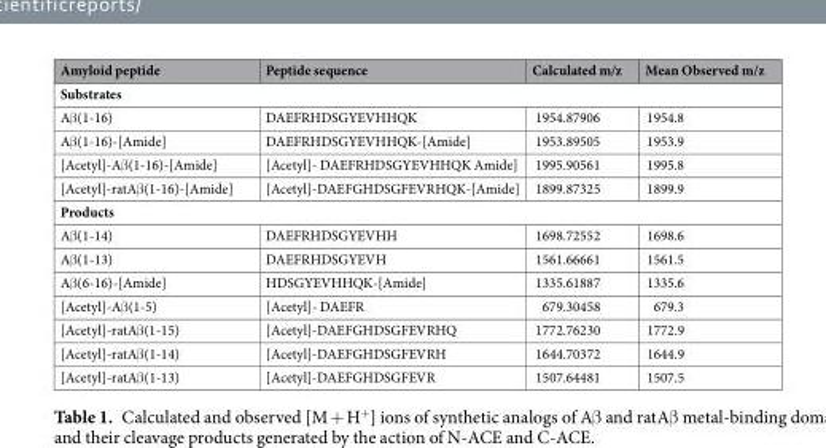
<table><thead><tr><td>Amyloid peptide</td><td>Peptide sequence</td><td>Calculated m/z</td><td>Mean Observed m/z</td></tr></thead><tbody><tr><td colspan="4">Substrates</td></tr><tr><td>Aβ(1-16)</td><td>DAEFRHDSGYEVHHQK</td><td>1954.87906</td><td>1954.8</td></tr><tr><td>Aβ(1-16)-[Amide]</td><td>DAEFRHDSGYEVHHQK-[Amide]</td><td>1953.89505</td><td>1953.9</td></tr><tr><td>[Acetyl]-Aβ(1-16)-[Amide]</td><td>[Acetyl]- DAEFRHDSGYEVHHQK Amide]</td><td>1995.90561</td><td>1995.8</td></tr><tr><td>[Acetyl]-ratAβ(1-16)-[Amide]</td><td>[Acetyl]-DAEFGHDSGFEVRHQK-[Amide]</td><td>1899.87325</td><td>1899.9</td></tr><tr><td colspan="4">Products</td></tr><tr><td>Aβ(1-14)</td><td>DAEFRHDSGYEVHH</td><td>1698.72552</td><td>1698.6</td></tr><tr><td>Aβ(1-13)</td><td>DAEFRHDSGYEVH</td><td>1561.66661</td><td>1561.5</td></tr><tr><td>Aβ(6-16)-[Amide]</td><td>HDSGYEVHHQK-[Amide]</td><td>1335.61887</td><td>1335.6</td></tr><tr><td>[Acetyl]-Aβ(1-5)</td><td>[Acetyl]- DAEFR</td><td>679.30458</td><td>679.3</td></tr><tr><td>[Acetyl]-ratAβ(1-15)</td><td>[Acetyl]-DAEFGHDSGFEVRHQ</td><td>1772.76230</td><td>1772.9</td></tr><tr><td>[Acetyl]-ratAβ(1-14)</td><td>[Acetyl]-DAEFGHDSGFEVRH</td><td>1644.70372</td><td>1644.9</td></tr><tr><td>[Acetyl]-ratAβ(1-13)</td><td>[Acetyl]-DAEFGHDSGFEVR</td><td>1507.64481</td><td>1507.5</td></tr></tbody></table>